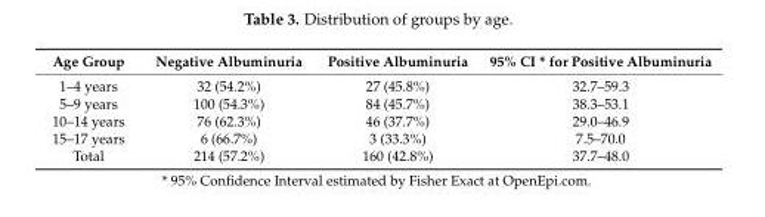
<table><thead><tr><td>Age Group</td><td>Negative Albuminuria</td><td>Positive Albuminuria</td><td>95% CI * for Positive Albuminuria</td></tr></thead><tbody><tr><td>1–4 years</td><td>32 (54.2%)</td><td>27 (45.8%)</td><td>32.7–59.3</td></tr><tr><td>5–9 years</td><td>100 (54.3%)</td><td>84 (45.7%)</td><td>38.3–53.1</td></tr><tr><td>10–14 years</td><td>76 (62.3%)</td><td>46 (37.7%)</td><td>29.0–46.9</td></tr><tr><td>15–17 years</td><td>6 (66.7%)</td><td>3 (33.3%)</td><td>7.5–70.0</td></tr><tr><td>Total</td><td>214 (57.2%)</td><td>160 (42.8%)</td><td>37.7–48.0</td></tr></tbody></table>